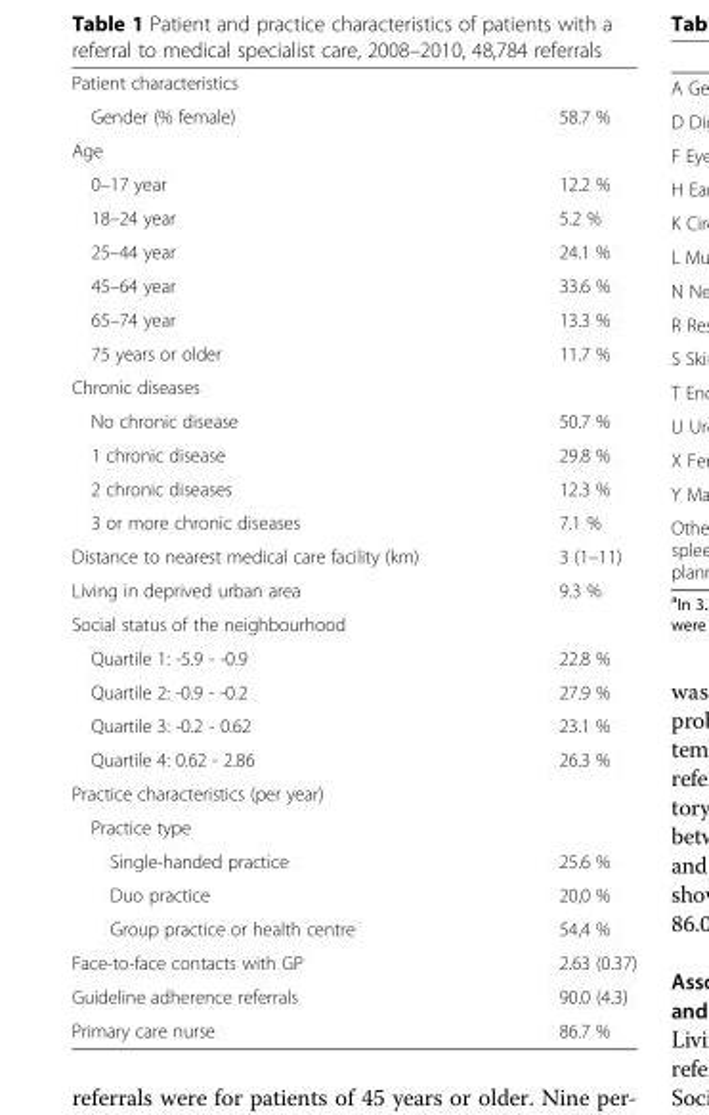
<table><tbody><tr><td colspan="2">Patient characteristics</td></tr><tr><td>Gender (% female)</td><td>58.7 %</td></tr><tr><td colspan="2">Age</td></tr><tr><td>0–17 year</td><td>12.2 %</td></tr><tr><td>18–24 year</td><td>5.2 %</td></tr><tr><td>25–44 year</td><td>24.1 %</td></tr><tr><td>45–64 year</td><td>33.6 %</td></tr><tr><td>65–74 year</td><td>13.3 %</td></tr><tr><td>75 years or older</td><td>11.7 %</td></tr><tr><td colspan="2">Chronic diseases</td></tr><tr><td>No chronic disease</td><td>50.7 %</td></tr><tr><td>1 chronic disease</td><td>29.8 %</td></tr><tr><td>2 chronic diseases</td><td>12.3 %</td></tr><tr><td>3 or more chronic diseases</td><td>7.1 %</td></tr><tr><td>Distance to nearest medical care facility (km)</td><td>3 (1–11)</td></tr><tr><td>Living in deprived urban area</td><td>9.3 %</td></tr><tr><td colspan="2">Social status of the neighbourhood</td></tr><tr><td>Quartile 1: -5.9 - -0.9</td><td>22.8 %</td></tr><tr><td>Quartile 2: -0.9 - -0.2</td><td>27.9 %</td></tr><tr><td>Quartile 3: -0.2 - 0.62</td><td>23.1 %</td></tr><tr><td>Quartile 4: 0.62 - 2.86</td><td>26.3 %</td></tr><tr><td colspan="2">Practice characteristics (per year)</td></tr><tr><td colspan="2">Practice type</td></tr><tr><td>Single-handed practice</td><td>25.6 %</td></tr><tr><td>Duo practice</td><td>20,0 %</td></tr><tr><td>Group practice or health centre</td><td>54,4 %</td></tr><tr><td>Face-to-face contacts with GP</td><td>2.63 (0.37)</td></tr><tr><td>Guideline adherence referrals</td><td>90.0 (4.3)</td></tr><tr><td>Primary care nurse</td><td>86.7 %</td></tr></tbody></table>